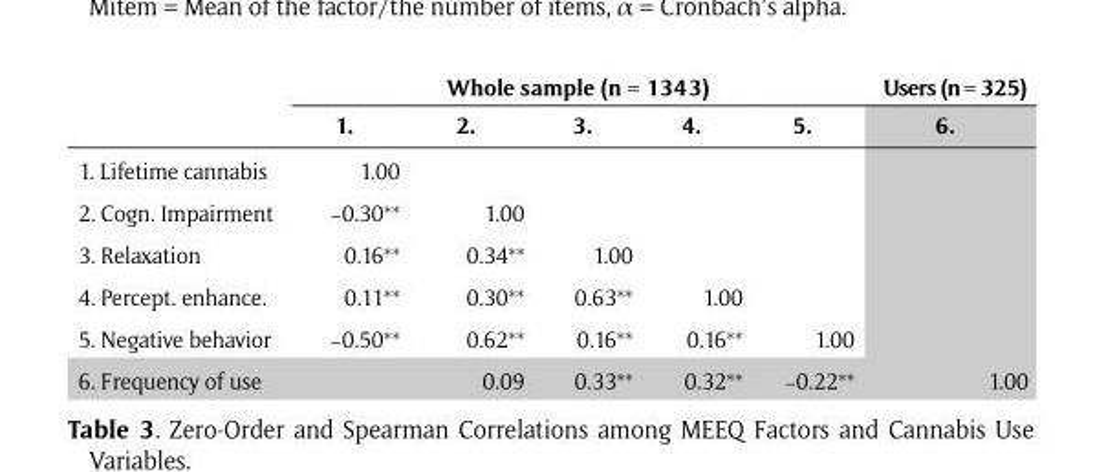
<table><thead><tr><td rowspan="2"></td><td colspan="5">Whole sample (n = 1343)</td><td rowspan="2">Users (n = 325) 6.</td></tr><tr><td>1.</td><td>2.</td><td>3.</td><td>4.</td><td>5.</td></tr></thead><tbody><tr><td>1. Lifetime cannabis</td><td>1.00</td><td></td><td></td><td></td><td></td><td></td></tr><tr><td>2. Cogn. Impairment</td><td>−0.30**</td><td>1.00</td><td></td><td></td><td></td><td></td></tr><tr><td>3. Relaxation</td><td>0.16**</td><td>0.34**</td><td>1.00</td><td></td><td></td><td></td></tr><tr><td>4. Percept. enhance.</td><td>0.11**</td><td>0.30**</td><td>0.63**</td><td>1.00</td><td></td><td></td></tr><tr><td>5. Negative behavior</td><td>−0.50**</td><td>0.62**</td><td>0.16**</td><td>0.16**</td><td>1.00</td><td></td></tr><tr><td>6. Frequency of use</td><td></td><td>0.09</td><td>0.33**</td><td>0.32**</td><td>−0.22**</td><td>1.00</td></tr></tbody></table>